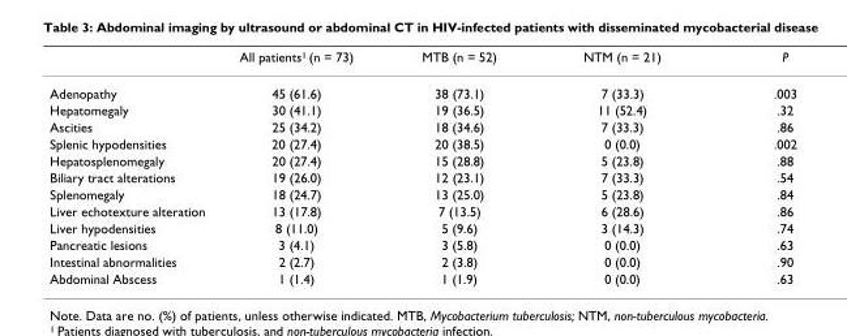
<table><thead><tr><td></td><td>All patients<sup>1</sup> (n = 73)</td><td>MTB (n = 52)</td><td>NTM (n = 21)</td><td>P</td></tr></thead><tbody><tr><td>Adenopathy</td><td>45 (61.6)</td><td>38 (73.1)</td><td>7 (33.3)</td><td>.003</td></tr><tr><td>Hepatomegaly</td><td>30 (41.1)</td><td>19 (36.5)</td><td>11 (52.4)</td><td>.32</td></tr><tr><td>Ascities</td><td>25 (34.2)</td><td>18 (34.6)</td><td>7 (33.3)</td><td>.86</td></tr><tr><td>Splenic hypodensities</td><td>20 (27.4)</td><td>20 (38.5)</td><td>0 (0.0)</td><td>.002</td></tr><tr><td>Hepatosplenomegaly</td><td>20 (27.4)</td><td>15 (28.8)</td><td>5 (23.8)</td><td>.88</td></tr><tr><td>Biliary tract alterations</td><td>19 (26.0)</td><td>12 (23.1)</td><td>7 (33.3)</td><td>.54</td></tr><tr><td>Splenomegaly</td><td>18 (24.7)</td><td>13 (25.0)</td><td>5 (23.8)</td><td>.84</td></tr><tr><td>Liver echotexture alteration</td><td>13 (17.8)</td><td>7 (13.5)</td><td>6 (28.6)</td><td>.86</td></tr><tr><td>Liver hypodensities</td><td>8 (11.0)</td><td>5 (9.6)</td><td>3 (14.3)</td><td>.74</td></tr><tr><td>Pancreatic lesions</td><td>3 (4.1)</td><td>3 (5.8)</td><td>0 (0.0)</td><td>.63</td></tr><tr><td>Intestinal abnormalities</td><td>2 (2.7)</td><td>2 (3.8)</td><td>0 (0.0)</td><td>.90</td></tr><tr><td>Abdominal Abscess</td><td>1 (1.4)</td><td>1 (1.9)</td><td>0 (0.0)</td><td>.63</td></tr></tbody></table>